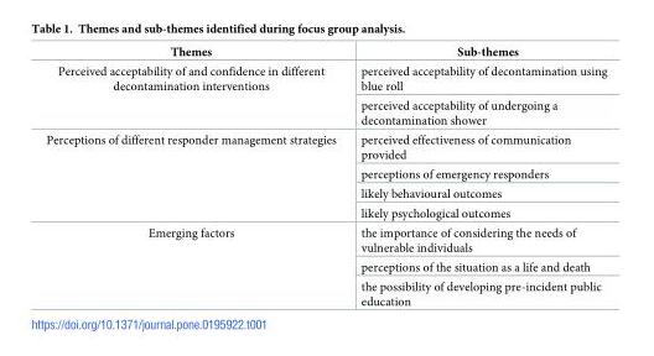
<table><thead><tr><td>Themes</td><td>Sub-themes</td></tr></thead><tbody><tr><td rowspan="2">Perceived acceptability of and confidence in different decontamination interventions</td><td>perceived acceptability of decontamination using blue roll</td></tr><tr><td>perceived acceptability of undergoing a decontamination shower</td></tr><tr><td rowspan="4">Perceptions of different responder management strategies</td><td>perceived effectiveness of communication provided</td></tr><tr><td>perceptions of emergency responders</td></tr><tr><td>likely behavioural outcomes</td></tr><tr><td>likely psychological outcomes</td></tr><tr><td rowspan="3">Emerging factors</td><td>the importance of considering the needs of vulnerable individuals</td></tr><tr><td>perceptions of the situation as a life and death</td></tr><tr><td>the possibility of developing pre-incident public education</td></tr></tbody></table>